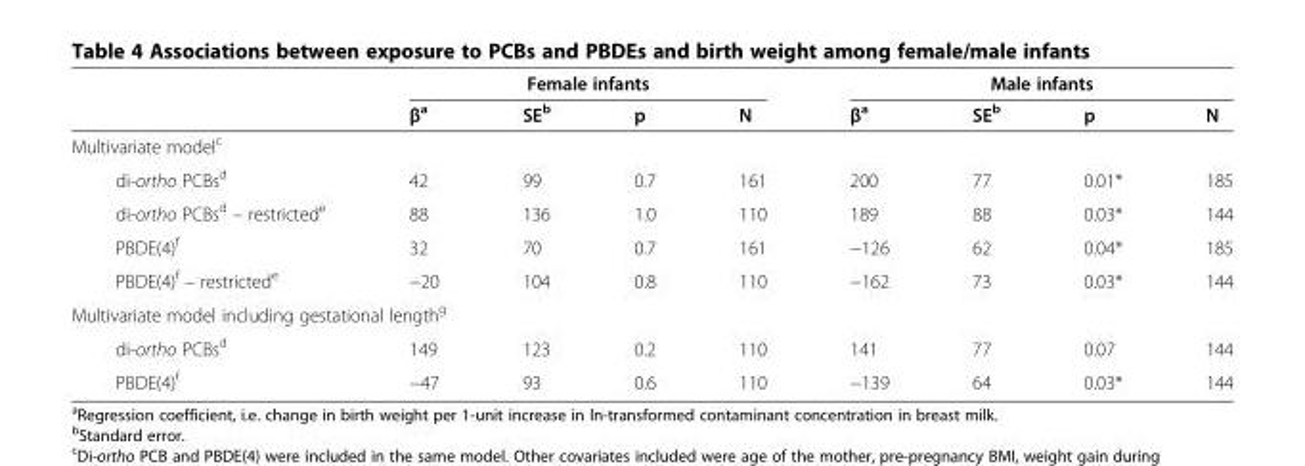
<table><thead><tr><td rowspan="2"></td><td colspan="4">Female infants</td><td colspan="4">Male infants</td></tr><tr><td>β<sup>a</sup></td><td>SE<sup>b</sup></td><td>p</td><td>N</td><td>β<sup>a</sup></td><td>SE<sup>b</sup></td><td>p</td><td>N</td></tr></thead><tbody><tr><td colspan="9">Multivariate model<sup>c</sup></td></tr><tr><td>di-ortho PCBs<sup>d</sup></td><td>42</td><td>99</td><td>0.7</td><td>161</td><td>200</td><td>77</td><td>0.01*</td><td>185</td></tr><tr><td>di-ortho PCBs<sup>d</sup> – restricted<sup>e</sup></td><td>88</td><td>136</td><td>1.0</td><td>110</td><td>189</td><td>88</td><td>0.03*</td><td>144</td></tr><tr><td>PBDE(4)<sup>f</sup></td><td>32</td><td>70</td><td>0.7</td><td>161</td><td>−126</td><td>62</td><td>0.04*</td><td>185</td></tr><tr><td>PBDE(4)<sup>f</sup> – restricted<sup>e</sup></td><td>−20</td><td>104</td><td>0.8</td><td>110</td><td>−162</td><td>73</td><td>0.03*</td><td>144</td></tr><tr><td colspan="9">Multivariate model including gestational length<sup>g</sup></td></tr><tr><td>di-ortho PCBs<sup>d</sup></td><td>149</td><td>123</td><td>0.2</td><td>110</td><td>141</td><td>77</td><td>0.07</td><td>144</td></tr><tr><td>PBDE(4)<sup>f</sup></td><td>−47</td><td>93</td><td>0.6</td><td>110</td><td>−139</td><td>64</td><td>0.03*</td><td>144</td></tr></tbody></table>